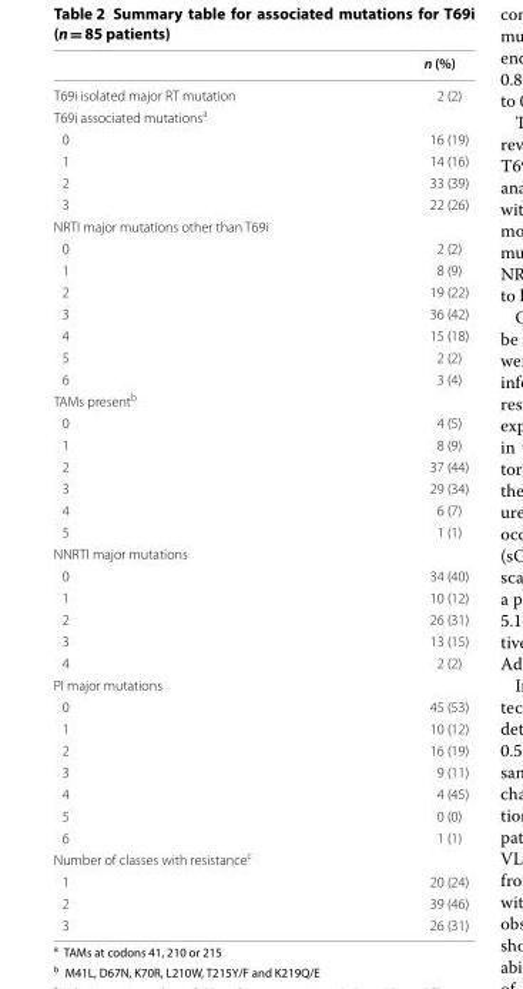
<table><thead><tr><td></td><td>n (%)</td></tr></thead><tbody><tr><td>T69i isolated major RT mutation</td><td>2 (2)</td></tr><tr><td colspan="2">T69i associated mutations<sup>a</sup></td></tr><tr><td>0</td><td>16 (19)</td></tr><tr><td>1</td><td>14 (16)</td></tr><tr><td>2</td><td>33 (39)</td></tr><tr><td>3</td><td>22 (26)</td></tr><tr><td colspan="2">NRTI major mutations other than T69i</td></tr><tr><td>0</td><td>2 (2)</td></tr><tr><td>1</td><td>8 (9)</td></tr><tr><td>2</td><td>19 (22)</td></tr><tr><td>3</td><td>36 (42)</td></tr><tr><td>4</td><td>15 (18)</td></tr><tr><td>5</td><td>2 (2)</td></tr><tr><td>6</td><td>3 (4)</td></tr><tr><td colspan="2">TAMs present<sup>b</sup></td></tr><tr><td>0</td><td>4 (5)</td></tr><tr><td>1</td><td>8 (9)</td></tr><tr><td>2</td><td>37 (44)</td></tr><tr><td>3</td><td>29 (34)</td></tr><tr><td>4</td><td>6 (7)</td></tr><tr><td>5</td><td>1 (1)</td></tr><tr><td colspan="2">NNRTI major mutations</td></tr><tr><td>0</td><td>34 (40)</td></tr><tr><td>1</td><td>10 (12)</td></tr><tr><td>2</td><td>26 (31)</td></tr><tr><td>3</td><td>13 (15)</td></tr><tr><td>4</td><td>2 (2)</td></tr><tr><td colspan="2">PI major mutations</td></tr><tr><td>0</td><td>45 (53)</td></tr><tr><td>1</td><td>10 (12)</td></tr><tr><td>2</td><td>16 (19)</td></tr><tr><td>3</td><td>9 (11)</td></tr><tr><td>4</td><td>4 (45)</td></tr><tr><td>5</td><td>0 (0)</td></tr><tr><td>6</td><td>1 (1)</td></tr><tr><td colspan="2">Number of classes with resistance<sup>c</sup></td></tr><tr><td>1</td><td>20 (24)</td></tr><tr><td>2</td><td>39 (46)</td></tr><tr><td>3</td><td>26 (31)</td></tr></tbody></table>